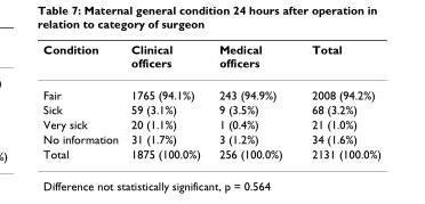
<table><thead><tr><td>Condition</td><td>Clinical officers</td><td>Medical officers</td><td>Total</td></tr></thead><tbody><tr><td>Fair</td><td>1765 (94.1%)</td><td>243 (94.9%)</td><td>2008 (94.2%)</td></tr><tr><td>Sick</td><td>59 (3.1%)</td><td>9 (3.5%)</td><td>68 (3.2%)</td></tr><tr><td>Very sick</td><td>20 (1.1%)</td><td>1 (0.4%)</td><td>21 (1.0%)</td></tr><tr><td>No information</td><td>31 (1.7%)</td><td>3 (1.2%)</td><td>34 (1.6%)</td></tr><tr><td>Total</td><td>1875 (100.0%)</td><td>256 (100.0%)</td><td>2131 (100.0%)</td></tr></tbody></table>